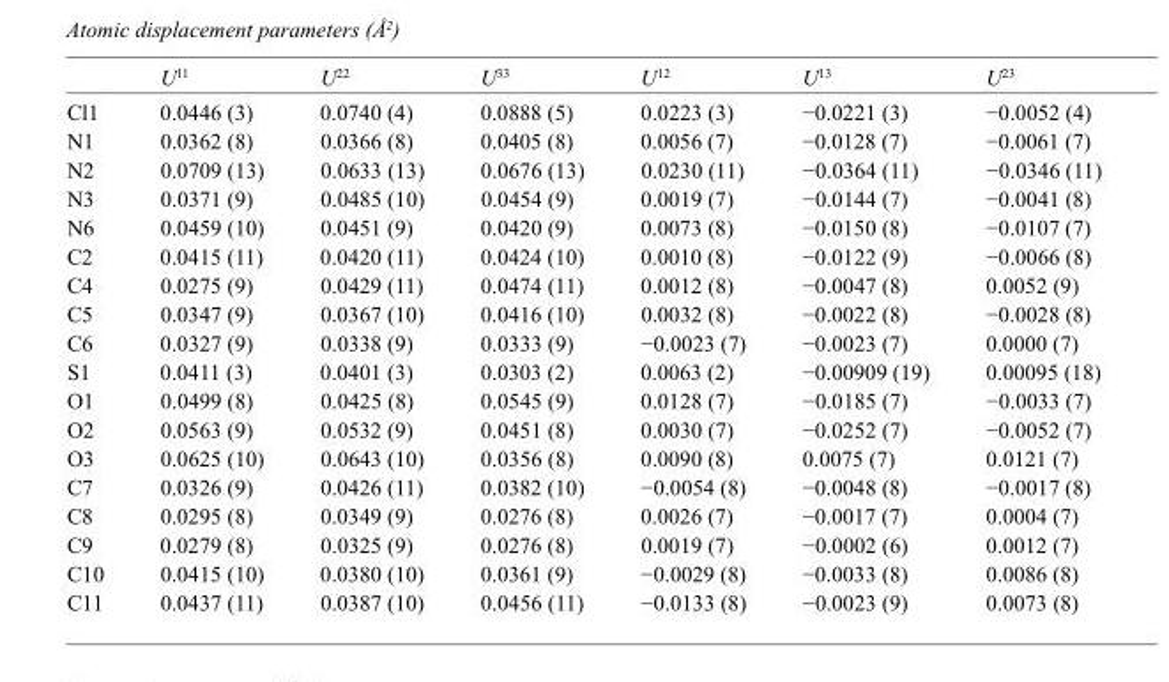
<table><thead><tr><td></td><td>U<sup>11</sup></td><td>U<sup>22</sup></td><td>U<sup>33</sup></td><td>U<sup>12</sup></td><td>U<sup>13</sup></td><td>U<sup>23</sup></td></tr></thead><tbody><tr><td>Cl1</td><td>0.0446 (3)</td><td>0.0740 (4)</td><td>0.0888 (5)</td><td>0.0223 (3)</td><td>−0.0221 (3)</td><td>−0.0052 (4)</td></tr><tr><td>N1</td><td>0.0362 (8)</td><td>0.0366 (8)</td><td>0.0405 (8)</td><td>0.0056 (7)</td><td>−0.0128 (7)</td><td>−0.0061 (7)</td></tr><tr><td>N2</td><td>0.0709 (13)</td><td>0.0633 (13)</td><td>0.0676 (13)</td><td>0.0230 (11)</td><td>−0.0364 (11)</td><td>−0.0346 (11)</td></tr><tr><td>N3</td><td>0.0371 (9)</td><td>0.0485 (10)</td><td>0.0454 (9)</td><td>0.0019 (7)</td><td>−0.0144 (7)</td><td>−0.0041 (8)</td></tr><tr><td>N6</td><td>0.0459 (10)</td><td>0.0451 (9)</td><td>0.0420 (9)</td><td>0.0073 (8)</td><td>−0.0150 (8)</td><td>−0.0107 (7)</td></tr><tr><td>C2</td><td>0.0415 (11)</td><td>0.0420 (11)</td><td>0.0424 (10)</td><td>0.0010 (8)</td><td>−0.0122 (9)</td><td>−0.0066 (8)</td></tr><tr><td>C4</td><td>0.0275 (9)</td><td>0.0429 (11)</td><td>0.0474 (11)</td><td>0.0012 (8)</td><td>−0.0047 (8)</td><td>0.0052 (9)</td></tr><tr><td>C5</td><td>0.0347 (9)</td><td>0.0367 (10)</td><td>0.0416 (10)</td><td>0.0032 (8)</td><td>−0.0022 (8)</td><td>−0.0028 (8)</td></tr><tr><td>C6</td><td>0.0327 (9)</td><td>0.0338 (9)</td><td>0.0333 (9)</td><td>−0.0023 (7)</td><td>−0.0023 (7)</td><td>0.0000 (7)</td></tr><tr><td>S1</td><td>0.0411 (3)</td><td>0.0401 (3)</td><td>0.0303 (2)</td><td>0.0063 (2)</td><td>−0.00909 (19)</td><td>0.00095 (18)</td></tr><tr><td>O1</td><td>0.0499 (8)</td><td>0.0425 (8)</td><td>0.0545 (9)</td><td>0.0128 (7)</td><td>−0.0185 (7)</td><td>−0.0033 (7)</td></tr><tr><td>O2</td><td>0.0563 (9)</td><td>0.0532 (9)</td><td>0.0451 (8)</td><td>0.0030 (7)</td><td>−0.0252 (7)</td><td>−0.0052 (7)</td></tr><tr><td>O3</td><td>0.0625 (10)</td><td>0.0643 (10)</td><td>0.0356 (8)</td><td>0.0090 (8)</td><td>0.0075 (7)</td><td>0.0121 (7)</td></tr><tr><td>C7</td><td>0.0326 (9)</td><td>0.0426 (11)</td><td>0.0382 (10)</td><td>−0.0054 (8)</td><td>−0.0048 (8)</td><td>−0.0017 (8)</td></tr><tr><td>C8</td><td>0.0295 (8)</td><td>0.0349 (9)</td><td>0.0276 (8)</td><td>0.0026 (7)</td><td>−0.0017 (7)</td><td>0.0004 (7)</td></tr><tr><td>C9</td><td>0.0279 (8)</td><td>0.0325 (9)</td><td>0.0276 (8)</td><td>0.0019 (7)</td><td>−0.0002 (6)</td><td>0.0012 (7)</td></tr><tr><td>C10</td><td>0.0415 (10)</td><td>0.0380 (10)</td><td>0.0361 (9)</td><td>−0.0029 (8)</td><td>−0.0033 (8)</td><td>0.0086 (8)</td></tr><tr><td>C11</td><td>0.0437 (11)</td><td>0.0387 (10)</td><td>0.0456 (11)</td><td>−0.0133 (8)</td><td>−0.0023 (9)</td><td>0.0073 (8)</td></tr></tbody></table>